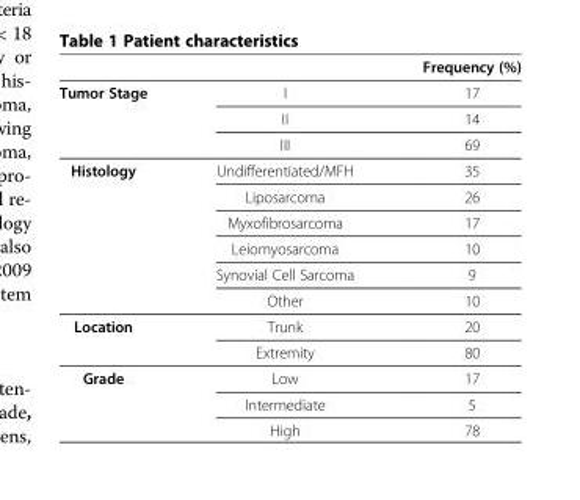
<table><thead><tr><td></td><td></td><td>Frequency (%)</td></tr></thead><tbody><tr><td rowspan="3">Tumor Stage</td><td>I</td><td>17</td></tr><tr><td>II</td><td>14</td></tr><tr><td>III</td><td>69</td></tr><tr><td rowspan="6">Histology</td><td>Undifferentiated/MFH</td><td>35</td></tr><tr><td>Liposarcoma</td><td>26</td></tr><tr><td>Myxofibrosarcoma</td><td>17</td></tr><tr><td>Leiomyosarcoma</td><td>10</td></tr><tr><td>Synovial Cell Sarcoma</td><td>9</td></tr><tr><td>Other</td><td>10</td></tr><tr><td rowspan="2">Location</td><td>Trunk</td><td>20</td></tr><tr><td>Extremity</td><td>80</td></tr><tr><td rowspan="3">Grade</td><td>Low</td><td>17</td></tr><tr><td>Intermediate</td><td>5</td></tr><tr><td>High</td><td>78</td></tr></tbody></table>